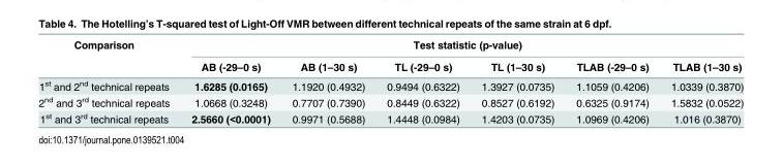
<table><thead><tr><td rowspan="2">Comparison</td><td colspan="6">Test statistic (p-value)</td></tr><tr><td>AB (-29–0 s)</td><td>AB (1–30 s)</td><td>TL (-29–0 s)</td><td>TL (1–30 s)</td><td>TLAB (-29–0 s)</td><td>TLAB (1–30 s)</td></tr></thead><tbody><tr><td>1<sup>st</sup> and 2<sup>nd</sup> technical repeats</td><td>1.6285 (0.0165)</td><td>1.1920 (0.4932)</td><td>0.9494 (0.6322)</td><td>1.3927 (0.0735)</td><td>1.1059 (0.4206)</td><td>1.0339 (0.3870)</td></tr><tr><td>2<sup>nd</sup> and 3<sup>rd</sup> technical repeats</td><td>1.0668 (0.3248)</td><td>0.7707 (0.7390)</td><td>0.8449 (0.6322)</td><td>0.8527 (0.6192)</td><td>0.6325 (0.9174)</td><td>1.5832 (0.0522)</td></tr><tr><td>1<sup>st</sup> and 3<sup>rd</sup> technical repeats</td><td>2.5660 (&lt;0.0001)</td><td>0.9971 (0.5688)</td><td>1.4448 (0.0984)</td><td>1.4203 (0.0735)</td><td>1.0969 (0.4206)</td><td>1.016 (0.3870)</td></tr></tbody></table>